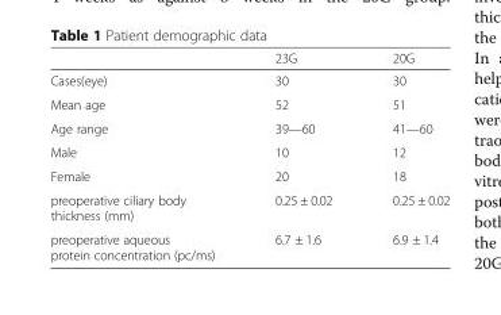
<table><thead><tr><td></td><td>23G</td><td>20G</td></tr></thead><tbody><tr><td>Cases(eye)</td><td>30</td><td>30</td></tr><tr><td>Mean age</td><td>52</td><td>51</td></tr><tr><td>Age range</td><td>39—60</td><td>41—60</td></tr><tr><td>Male</td><td>10</td><td>12</td></tr><tr><td>Female</td><td>20</td><td>18</td></tr><tr><td>preoperative ciliary body thickness (mm)</td><td>0.25 ± 0.02</td><td>0.25 ± 0.02</td></tr><tr><td>preoperative aqueous protein concentration (pc/ms)</td><td>6.7 ± 1.6</td><td>6.9 ± 1.4</td></tr></tbody></table>